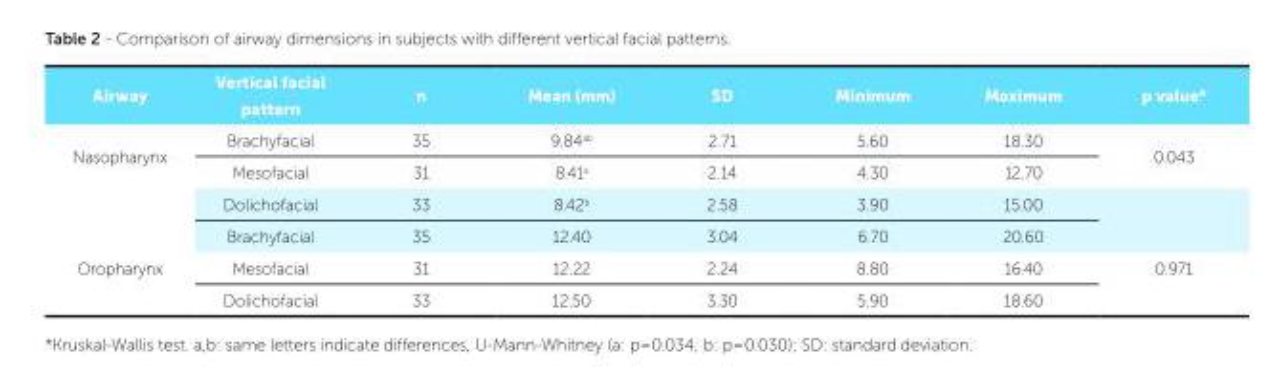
<table><tbody><tr><td>Airway</td><td>Vertical facial pattern</td><td>n</td><td>Mean (mm)</td><td>SD</td><td>Minimum</td><td>Maximum</td><td>p value*</td></tr><tr><td rowspan="4">Nasopharynx</td><td>Brachyfacial</td><td>35</td><td>9.84<sup>ab</sup></td><td>2.71</td><td>5.60</td><td>18.30</td><td rowspan="2">0.043</td></tr><tr><td>Mesofacial</td><td>31</td><td>8.41<sup>a</sup></td><td>2.14</td><td>4.30</td><td>12.70</td></tr><tr><td>Dolichofacial</td><td>33</td><td>8.42<sup>b</sup></td><td>2.58</td><td>3.90</td><td>15.00</td><td rowspan="2"></td></tr><tr><td>Brachyfacial</td><td>35</td><td>12.40</td><td>3.04</td><td>6.70</td><td>20.60</td></tr><tr><td rowspan="2">Oropharynx</td><td>Mesofacial</td><td>31</td><td>12.22</td><td>2.24</td><td>8.80</td><td>16.40</td><td>0.971</td></tr><tr><td>Dolichofacial</td><td>33</td><td>12.50</td><td>3.30</td><td>5.90</td><td>18.60</td><td></td></tr></tbody></table>